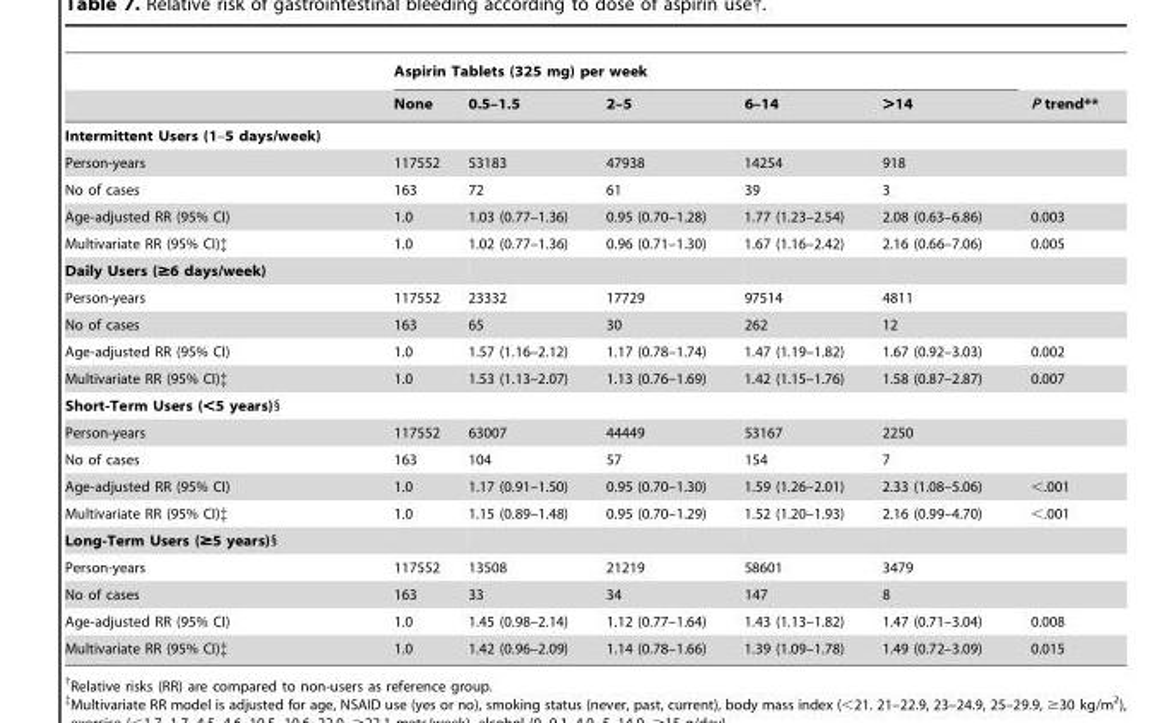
<table><thead><tr><td rowspan="2"></td><td colspan="5">Aspirin Tablets (325 mg) per week</td><td rowspan="2">P trend**</td></tr><tr><td>None</td><td>0.5–1.5</td><td>2–5</td><td>6–14</td><td>&gt;14</td></tr></thead><tbody><tr><td colspan="7">Intermittent Users (1–5 days/week)</td></tr><tr><td>Person-years</td><td>117552</td><td>53183</td><td>47938</td><td>14254</td><td>918</td><td></td></tr><tr><td>No of cases</td><td>163</td><td>72</td><td>61</td><td>39</td><td>3</td><td></td></tr><tr><td>Age-adjusted RR (95% CI)</td><td>1.0</td><td>1.03 (0.77–1.36)</td><td>0.95 (0.70–1.28)</td><td>1.77 (1.23–2.54)</td><td>2.08 (0.63–6.86)</td><td>0.003</td></tr><tr><td>Multivariate RR (95% CI)‡</td><td>1.0</td><td>1.02 (0.77–1.36)</td><td>0.96 (0.71–1.30)</td><td>1.67 (1.16–2.42)</td><td>2.16 (0.66–7.06)</td><td>0.005</td></tr><tr><td colspan="7">Daily Users (≥6 days/week)</td></tr><tr><td>Person-years</td><td>117552</td><td>23332</td><td>17729</td><td>97514</td><td>4811</td><td></td></tr><tr><td>No of cases</td><td>163</td><td>65</td><td>30</td><td>262</td><td>12</td><td></td></tr><tr><td>Age-adjusted RR (95% CI)</td><td>1.0</td><td>1.57 (1.16–2.12)</td><td>1.17 (0.78–1.74)</td><td>1.47 (1.19–1.82)</td><td>1.67 (0.92–3.03)</td><td>0.002</td></tr><tr><td>Multivariate RR (95% CI)‡</td><td>1.0</td><td>1.53 (1.13–2.07)</td><td>1.13 (0.76–1.69)</td><td>1.42 (1.15–1.76)</td><td>1.58 (0.87–2.87)</td><td>0.007</td></tr><tr><td colspan="7">Short-Term Users (&lt;5 years)§</td></tr><tr><td>Person-years</td><td>117552</td><td>63007</td><td>44449</td><td>53167</td><td>2250</td><td></td></tr><tr><td>No of cases</td><td>163</td><td>104</td><td>57</td><td>154</td><td>7</td><td></td></tr><tr><td>Age-adjusted RR (95% CI)</td><td>1.0</td><td>1.17 (0.91–1.50)</td><td>0.95 (0.70–1.30)</td><td>1.59 (1.26–2.01)</td><td>2.33 (1.08–5.06)</td><td>&lt;.001</td></tr><tr><td>Multivariate RR (95% CI)‡</td><td>1.0</td><td>1.15 (0.89–1.48)</td><td>0.95 (0.70–1.29)</td><td>1.52 (1.20–1.93)</td><td>2.16 (0.99–4.70)</td><td>&lt;.001</td></tr><tr><td colspan="7">Long-Term Users (≥5 years)§</td></tr><tr><td>Person-years</td><td>117552</td><td>13508</td><td>21219</td><td>58601</td><td>3479</td><td></td></tr><tr><td>No of cases</td><td>163</td><td>33</td><td>34</td><td>147</td><td>8</td><td></td></tr><tr><td>Age-adjusted RR (95% CI)</td><td>1.0</td><td>1.45 (0.98–2.14)</td><td>1.12 (0.77–1.64)</td><td>1.43 (1.13–1.82)</td><td>1.47 (0.71–3.04)</td><td>0.008</td></tr><tr><td>Multivariate RR (95% CI)‡</td><td>1.0</td><td>1.42 (0.96–2.09)</td><td>1.14 (0.78–1.66)</td><td>1.39 (1.09–1.78)</td><td>1.49 (0.72–3.09)</td><td>0.015</td></tr></tbody></table>